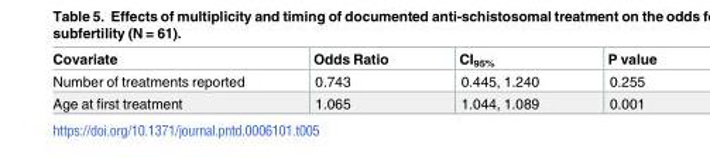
<table><thead><tr><td>Covariate</td><td>Odds Ratio</td><td>CI<sub>95%</sub></td><td>P value</td></tr></thead><tbody><tr><td>Number of treatments reported</td><td>0.743</td><td>0.445, 1.240</td><td>0.255</td></tr><tr><td>Age at first treatment</td><td>1.065</td><td>1.044, 1.089</td><td>0.001</td></tr></tbody></table>